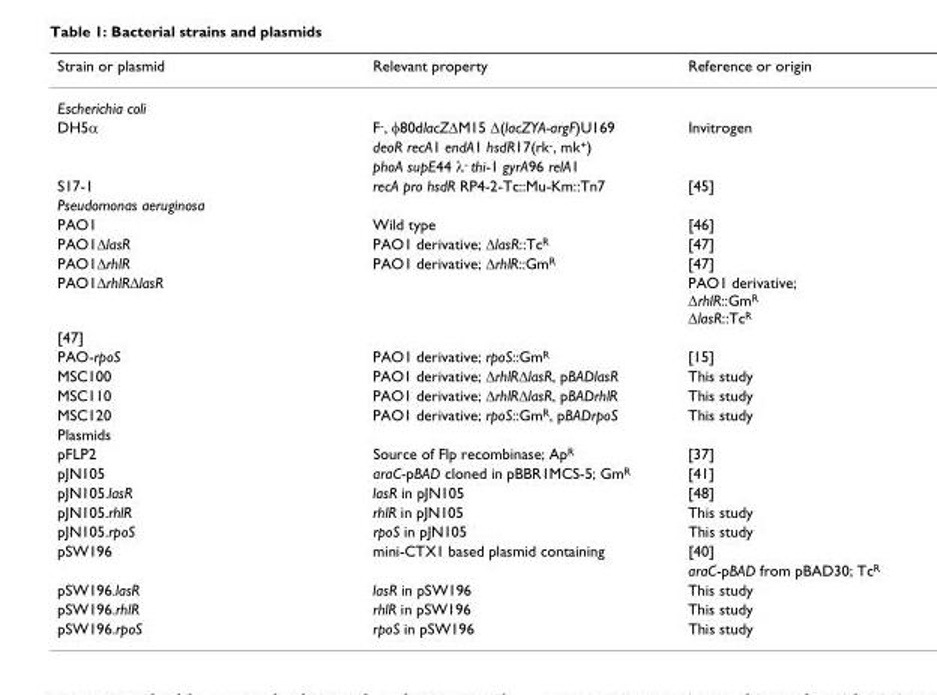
<table><thead><tr><td>Strain or plasmid</td><td>Relevant property</td><td>Reference or origin</td></tr></thead><tbody><tr><td colspan="3">Escherichia coli</td></tr><tr><td rowspan="3">DH5α</td><td>F-, φ80dlacZ∆M15 ∆(lacZYA-argF)U169</td><td>Invitrogen</td></tr><tr><td>deoR recA1 endA1 hsdR17(rk<sup>-</sup>, mk<sup>+</sup>)</td><td></td></tr><tr><td>phoA supE44 λ<sup>-</sup> thi-1 gyrA96 relA1</td><td></td></tr><tr><td>S17-1</td><td>recA pro hsdR RP4-2-Tc::Mu-Km::Tn7</td><td>[45]</td></tr><tr><td colspan="3">Pseudomonas aeruginosa</td></tr><tr><td>PAO1</td><td>Wild type</td><td>[46]</td></tr><tr><td>PAO1∆lasR</td><td>PAO1 derivative; ∆lasR::TcR</td><td>[47]</td></tr><tr><td>PAO1∆rhlR</td><td>PAO1 derivative; ∆rhlR::GmR</td><td>[47]</td></tr><tr><td>PAO1∆rhlR∆lasR</td><td></td><td>PAO1 derivative; ∆rhlR::GmR ∆lasR::TcR</td></tr><tr><td colspan="3">[47]</td></tr><tr><td>PAO-rpoS</td><td>PAO1 derivative; rpoS::Gm<sup>R</sup></td><td>[15]</td></tr><tr><td>MSC100</td><td>PAO1 derivative; ∆rhlR∆lasR, pBADlasR</td><td>This study</td></tr><tr><td>MSC110</td><td>PAO1 derivative; ∆rhlR∆lasR, pBADrhlR</td><td>This study</td></tr><tr><td>MSC120</td><td>PAO1 derivative; rpoS::Gm<sup>R</sup>, pBADrpoS</td><td>This study</td></tr><tr><td colspan="3">Plasmids</td></tr><tr><td>pFLP2</td><td>Source of Flp recombinase; Ap<sup>R</sup></td><td>[37]</td></tr><tr><td>pJN105</td><td>araC-pBAD cloned in pBBR1MCS-5; Gm<sup>R</sup></td><td>[41]</td></tr><tr><td>pJN105.lasR</td><td>lasR in pJN105</td><td>[48]</td></tr><tr><td>pJN105.rhlR</td><td>rhlR in pJN105</td><td>This study</td></tr><tr><td>pJN105.rpoS</td><td>rpoS in pJN105</td><td>This study</td></tr><tr><td rowspan="2">pSW196</td><td>mini-CTX1 based plasmid containing</td><td>[40]</td></tr><tr><td></td><td>araC-pBAD from pBAD30; Tc<sup>R</sup></td></tr><tr><td>pSW196.lasR</td><td>lasR in pSW196</td><td>This study</td></tr><tr><td>pSW196.rhlR</td><td>rhlR in pSW196</td><td>This study</td></tr><tr><td>pSW196.rpoS</td><td>rpoS in pSW196</td><td>This study</td></tr></tbody></table>